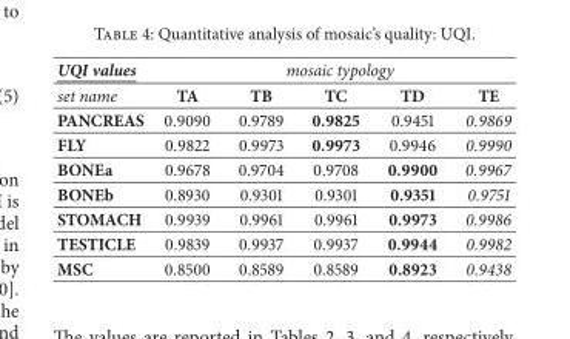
<table><tbody><tr><td>UQI values</td><td colspan="5">mosaic typology</td></tr><tr><td>set name</td><td>TA</td><td>TB</td><td>TC</td><td>TD</td><td>TE</td></tr><tr><td>PANCREAS</td><td>0.9090</td><td>0.9789</td><td>0.9825</td><td>0.9451</td><td>0.9869</td></tr><tr><td>FLY</td><td>0.9822</td><td>0.9973</td><td>0.9973</td><td>0.9946</td><td>0.9990</td></tr><tr><td>BONEa</td><td>0.9678</td><td>0.9704</td><td>0.9708</td><td>0.9900</td><td>0.9967</td></tr><tr><td>BONEb</td><td>0.8930</td><td>0.9301</td><td>0.9301</td><td>0.9351</td><td>0.9751</td></tr><tr><td>STOMACH</td><td>0.9939</td><td>0.9961</td><td>0.9961</td><td>0.9973</td><td>0.9986</td></tr><tr><td>TESTICLE</td><td>0.9839</td><td>0.9937</td><td>0.9937</td><td>0.9944</td><td>0.9982</td></tr><tr><td>MSC</td><td>0.8500</td><td>0.8589</td><td>0.8589</td><td>0.8923</td><td>0.9438</td></tr></tbody></table>